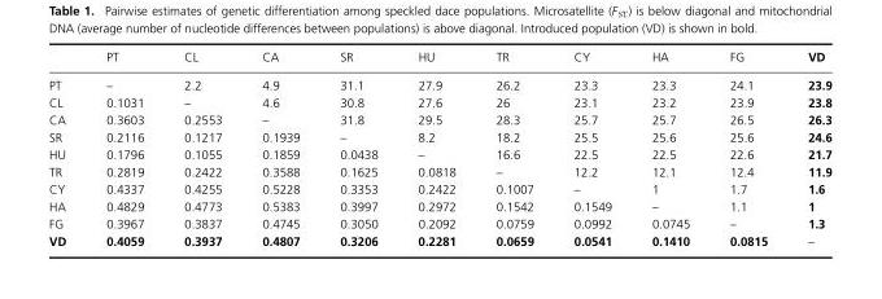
<table><thead><tr><td></td><td>PT</td><td>CL</td><td>CA</td><td>SR</td><td>HU</td><td>TR</td><td>CY</td><td>HA</td><td>FG</td><td>VD</td></tr></thead><tbody><tr><td>PT</td><td>–</td><td>2.2</td><td>4.9</td><td>31.1</td><td>27.9</td><td>26.2</td><td>23.3</td><td>23.3</td><td>24.1</td><td>23.9</td></tr><tr><td>CL</td><td>0.1031</td><td>–</td><td>4.6</td><td>30.8</td><td>27.6</td><td>26</td><td>23.1</td><td>23.2</td><td>23.9</td><td>23.8</td></tr><tr><td>CA</td><td>0.3603</td><td>0.2553</td><td>–</td><td>31.8</td><td>29.5</td><td>28.3</td><td>25.7</td><td>25.7</td><td>26.5</td><td>26.3</td></tr><tr><td>SR</td><td>0.2116</td><td>0.1217</td><td>0.1939</td><td>–</td><td>8.2</td><td>18.2</td><td>25.5</td><td>25.6</td><td>25.6</td><td>24.6</td></tr><tr><td>HU</td><td>0.1796</td><td>0.1055</td><td>0.1859</td><td>0.0438</td><td>–</td><td>16.6</td><td>22.5</td><td>22.5</td><td>22.6</td><td>21.7</td></tr><tr><td>TR</td><td>0.2819</td><td>0.2422</td><td>0.3588</td><td>0.1625</td><td>0.0818</td><td>–</td><td>12.2</td><td>12.1</td><td>12.4</td><td>11.9</td></tr><tr><td>CY</td><td>0.4337</td><td>0.4255</td><td>0.5228</td><td>0.3353</td><td>0.2422</td><td>0.1007</td><td>–</td><td>1</td><td>1.7</td><td>1.6</td></tr><tr><td>HA</td><td>0.4829</td><td>0.4773</td><td>0.5383</td><td>0.3997</td><td>0.2972</td><td>0.1542</td><td>0.1549</td><td>–</td><td>1.1</td><td>1</td></tr><tr><td>FG</td><td>0.3967</td><td>0.3837</td><td>0.4745</td><td>0.3050</td><td>0.2092</td><td>0.0759</td><td>0.0992</td><td>0.0745</td><td>–</td><td>1.3</td></tr><tr><td>VD</td><td>0.4059</td><td>0.3937</td><td>0.4807</td><td>0.3206</td><td>0.2281</td><td>0.0659</td><td>0.0541</td><td>0.1410</td><td>0.0815</td><td>–</td></tr></tbody></table>